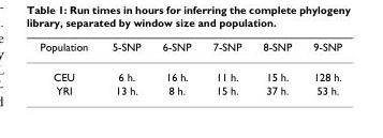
<table><thead><tr><td>Population</td><td>5-SNP</td><td>6-SNP</td><td>7-SNP</td><td>8-SNP</td><td>9-SNP</td></tr></thead><tbody><tr><td>CEU</td><td>6 h.</td><td>16 h.</td><td>11 h.</td><td>15 h.</td><td>128 h.</td></tr><tr><td>YRI</td><td>13 h.</td><td>8 h.</td><td>15 h.</td><td>37 h.</td><td>53 h.</td></tr></tbody></table>